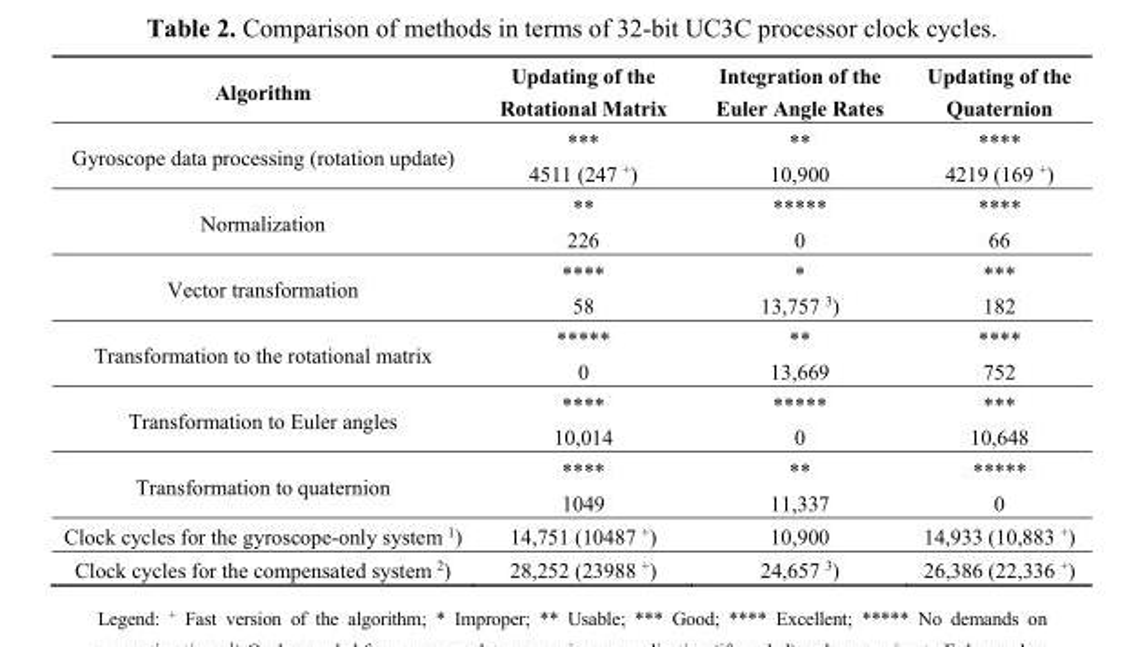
<table><thead><tr><td>Algorithm</td><td>Updating of the Rotational Matrix</td><td>Integration of the Euler Angle Rates</td><td>Updating of the Quaternion</td></tr></thead><tbody><tr><td>Gyroscope data processing (rotation update)</td><td>*** 4511 (247 <sup>+</sup>)</td><td>** 10,900</td><td>**** 4219 (169 <sup>+</sup>)</td></tr><tr><td>Normalization</td><td>** 226</td><td>***** 0</td><td>**** 66</td></tr><tr><td>Vector transformation</td><td>**** 58</td><td>* 13,757 <sup>3</sup>)</td><td>*** 182</td></tr><tr><td>Transformation to the rotational matrix</td><td>***** 0</td><td>** 13,669</td><td>**** 752</td></tr><tr><td>Transformation to Euler angles</td><td>**** 10,014</td><td>***** 0</td><td>*** 10,648</td></tr><tr><td>Transformation to quaternion</td><td>**** 1049</td><td>** 11,337</td><td>***** 0</td></tr><tr><td>Clock cycles for the gyroscope-only system <sup>1</sup>)</td><td>14,751 (10487 <sup>+</sup>)</td><td>10,900</td><td>14,933 (10,883 <sup>+</sup>)</td></tr><tr><td>Clock cycles for the compensated system <sup>2</sup>)</td><td>28,252 (23988 <sup>+</sup>)</td><td>24,657 <sup>3</sup>)</td><td>26,386 (22,336 <sup>+</sup>)</td></tr></tbody></table>